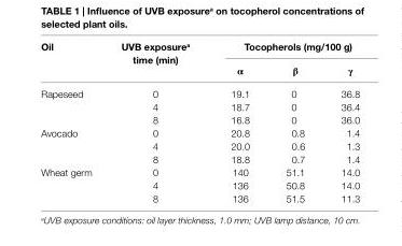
<table><thead><tr><td rowspan="2">Oil</td><td rowspan="2">UVB exposure<sup>a</sup> time (min)</td><td colspan="3">Tocopherols (mg/100 g)</td></tr><tr><td>α</td><td>β</td><td>γ</td></tr></thead><tbody><tr><td rowspan="3">Rapeseed</td><td>0</td><td>19.1</td><td>0</td><td>36.8</td></tr><tr><td>4</td><td>18.7</td><td>0</td><td>36.4</td></tr><tr><td>8</td><td>16.8</td><td>0</td><td>36.0</td></tr><tr><td rowspan="3">Avocado</td><td>0</td><td>20.8</td><td>0.8</td><td>1.4</td></tr><tr><td>4</td><td>20.0</td><td>0.6</td><td>1.3</td></tr><tr><td>8</td><td>18.8</td><td>0.7</td><td>1.4</td></tr><tr><td rowspan="3">Wheat germ</td><td>0</td><td>140</td><td>51.1</td><td>14.0</td></tr><tr><td>4</td><td>136</td><td>50.8</td><td>14.0</td></tr><tr><td>8</td><td>136</td><td>51.5</td><td>11.3</td></tr></tbody></table>